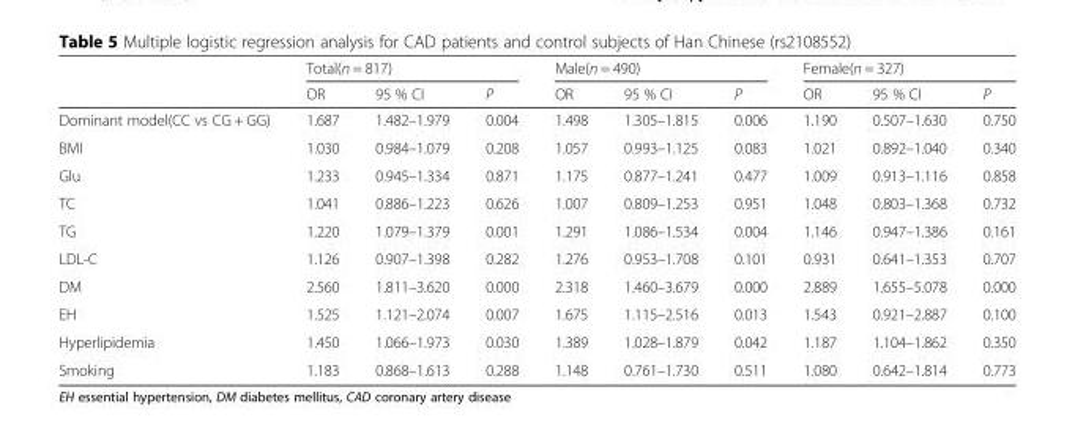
<table><thead><tr><td rowspan="2"></td><td colspan="3">Total(n = 817)</td><td colspan="3">Male(n = 490)</td><td colspan="3">Female(n = 327)</td></tr><tr><td>OR</td><td>95 % CI</td><td>P</td><td>OR</td><td>95 % CI</td><td>P</td><td>OR</td><td>95 % CI</td><td>P</td></tr></thead><tbody><tr><td>Dominant model(CC vs CG + GG)</td><td>1.687</td><td>1.482–1.979</td><td>0.004</td><td>1.498</td><td>1.305–1.815</td><td>0.006</td><td>1.190</td><td>0.507–1.630</td><td>0.750</td></tr><tr><td>BMI</td><td>1.030</td><td>0.984–1.079</td><td>0.208</td><td>1.057</td><td>0.993–1.125</td><td>0.083</td><td>1.021</td><td>0.892–1.040</td><td>0.340</td></tr><tr><td>Glu</td><td>1.233</td><td>0.945–1.334</td><td>0.871</td><td>1.175</td><td>0.877–1.241</td><td>0.477</td><td>1.009</td><td>0.913–1.116</td><td>0.858</td></tr><tr><td>TC</td><td>1.041</td><td>0.886–1.223</td><td>0.626</td><td>1.007</td><td>0.809–1.253</td><td>0.951</td><td>1.048</td><td>0.803–1.368</td><td>0.732</td></tr><tr><td>TG</td><td>1.220</td><td>1.079–1.379</td><td>0.001</td><td>1.291</td><td>1.086–1.534</td><td>0.004</td><td>1.146</td><td>0.947–1.386</td><td>0.161</td></tr><tr><td>LDL-C</td><td>1.126</td><td>0.907–1.398</td><td>0.282</td><td>1.276</td><td>0.953–1.708</td><td>0.101</td><td>0.931</td><td>0.641–1.353</td><td>0.707</td></tr><tr><td>DM</td><td>2.560</td><td>1.811–3.620</td><td>0.000</td><td>2.318</td><td>1.460–3.679</td><td>0.000</td><td>2.889</td><td>1.655–5.078</td><td>0.000</td></tr><tr><td>EH</td><td>1.525</td><td>1.121–2.074</td><td>0.007</td><td>1.675</td><td>1.115–2.516</td><td>0.013</td><td>1.543</td><td>0.921–2.887</td><td>0.100</td></tr><tr><td>Hyperlipidemia</td><td>1.450</td><td>1.066–1.973</td><td>0.030</td><td>1.389</td><td>1.028–1.879</td><td>0.042</td><td>1.187</td><td>1.104–1.862</td><td>0.350</td></tr><tr><td>Smoking</td><td>1.183</td><td>0.868–1.613</td><td>0.288</td><td>1.148</td><td>0.761–1.730</td><td>0.511</td><td>1.080</td><td>0.642–1.814</td><td>0.773</td></tr></tbody></table>